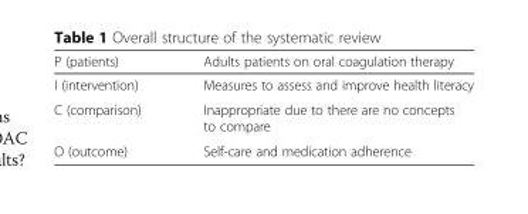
<table><thead><tr><td>P (patients)</td><td>Adults patients on oral coagulation therapy</td></tr></thead><tbody><tr><td>I (intervention)</td><td>Measures to assess and improve health literacy</td></tr><tr><td>C (comparison)</td><td>Inappropriate due to there are no concepts to compare</td></tr><tr><td>O (outcome)</td><td>Self-care and medication adherence</td></tr></tbody></table>